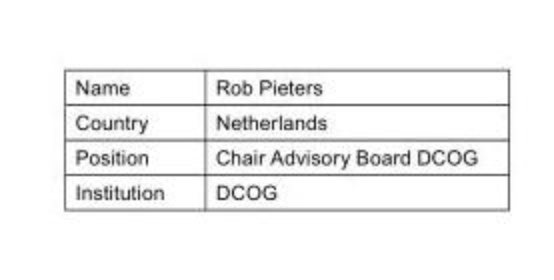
<table><tbody><tr><td>Name</td><td>Rob Pieters</td></tr><tr><td>Country</td><td>Netherlands</td></tr><tr><td>Position</td><td>Chair Advisory Board DCOG</td></tr><tr><td>Institution</td><td>DCOG</td></tr></tbody></table>